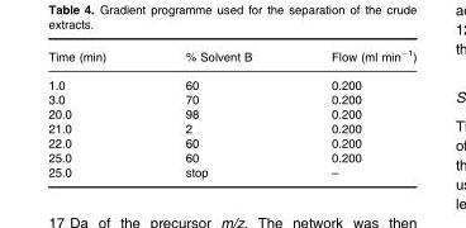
<table><thead><tr><td>Time (min)</td><td>% Solvent B</td><td>Flow (ml min<sup>−1</sup>)</td></tr></thead><tbody><tr><td>1.0</td><td>60</td><td>0.200</td></tr><tr><td>3.0</td><td>70</td><td>0.200</td></tr><tr><td>20.0</td><td>98</td><td>0.200</td></tr><tr><td>21.0</td><td>2</td><td>0.200</td></tr><tr><td>22.0</td><td>60</td><td>0.200</td></tr><tr><td>25.0</td><td>60</td><td>0.200</td></tr><tr><td>25.0</td><td>stop</td><td>–</td></tr></tbody></table>